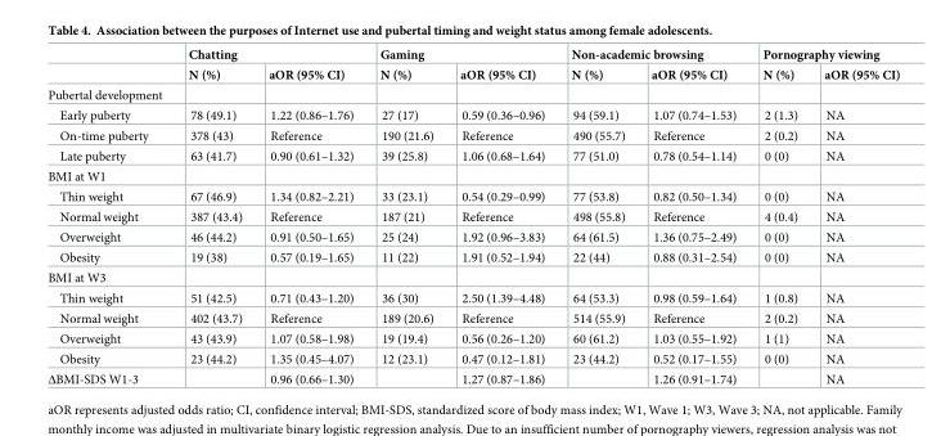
<table><thead><tr><td rowspan="2"></td><td colspan="2">Chatting</td><td colspan="2">Gaming</td><td colspan="2">Non-academic browsing</td><td colspan="2">Pornography viewing</td></tr><tr><td>N (%)</td><td>aOR (95% CI)</td><td>N (%)</td><td>aOR (95% CI)</td><td>N (%)</td><td>aOR (95% CI)</td><td>N (%)</td><td>aOR (95% CI)</td></tr></thead><tbody><tr><td colspan="9">Pubertal development</td></tr><tr><td>Early puberty</td><td>78 (49.1)</td><td>1.22 (0.86–1.76)</td><td>27 (17)</td><td>0.59 (0.36–0.96)</td><td>94 (59.1)</td><td>1.07 (0.74–1.53)</td><td>2 (1.3)</td><td>NA</td></tr><tr><td>On-time puberty</td><td>378 (43)</td><td>Reference</td><td>190 (21.6)</td><td>Reference</td><td>490 (55.7)</td><td>Reference</td><td>2 (0.2)</td><td>NA</td></tr><tr><td>Late puberty</td><td>63 (41.7)</td><td>0.90 (0.61–1.32)</td><td>39 (25.8)</td><td>1.06 (0.68–1.64)</td><td>77 (51.0)</td><td>0.78 (0.54–1.14)</td><td>0 (0)</td><td>NA</td></tr><tr><td colspan="9">BMI at W1</td></tr><tr><td>Thin weight</td><td>67 (46.9)</td><td>1.34 (0.82–2.21)</td><td>33 (23.1)</td><td>0.54 (0.29–0.99)</td><td>77 (53.8)</td><td>0.82 (0.50–1.34)</td><td>0 (0)</td><td>NA</td></tr><tr><td>Normal weight</td><td>387 (43.4)</td><td>Reference</td><td>187 (21)</td><td>Reference</td><td>498 (55.8)</td><td>Reference</td><td>4 (0.4)</td><td>NA</td></tr><tr><td>Overweight</td><td>46 (44.2)</td><td>0.91 (0.50–1.65)</td><td>25 (24)</td><td>1.92 (0.96–3.83)</td><td>64 (61.5)</td><td>1.36 (0.75–2.49)</td><td>0 (0)</td><td>NA</td></tr><tr><td>Obesity</td><td>19 (38)</td><td>0.57 (0.19–1.65)</td><td>11 (22)</td><td>1.91 (0.52–1.94)</td><td>22 (44)</td><td>0.88 (0.31–2.54)</td><td>0 (0)</td><td>NA</td></tr><tr><td colspan="9">BMI at W3</td></tr><tr><td>Thin weight</td><td>51 (42.5)</td><td>0.71 (0.43–1.20)</td><td>36 (30)</td><td>2.50 (1.39–4.48)</td><td>64 (53.3)</td><td>0.98 (0.59–1.64)</td><td>1 (0.8)</td><td>NA</td></tr><tr><td>Normal weight</td><td>402 (43.7)</td><td>Reference</td><td>189 (20.6)</td><td>Reference</td><td>514 (55.9)</td><td>Reference</td><td>2 (0.2)</td><td>NA</td></tr><tr><td>Overweight</td><td>43 (43.9)</td><td>1.07 (0.58–1.98)</td><td>19 (19.4)</td><td>0.56 (0.26–1.20)</td><td>60 (61.2)</td><td>1.03 (0.55–1.92)</td><td>1 (1)</td><td>NA</td></tr><tr><td>Obesity</td><td>23 (44.2)</td><td>1.35 (0.45–4.07)</td><td>12 (23.1)</td><td>0.47 (0.12–1.81)</td><td>23 (44.2)</td><td>0.52 (0.17–1.55)</td><td>0 (0)</td><td>NA</td></tr><tr><td>ΔBMI-SDS W1-3</td><td></td><td>0.96 (0.66–1.30)</td><td></td><td>1.27 (0.87–1.86)</td><td></td><td>1.26 (0.91–1.74)</td><td></td><td>NA</td></tr></tbody></table>